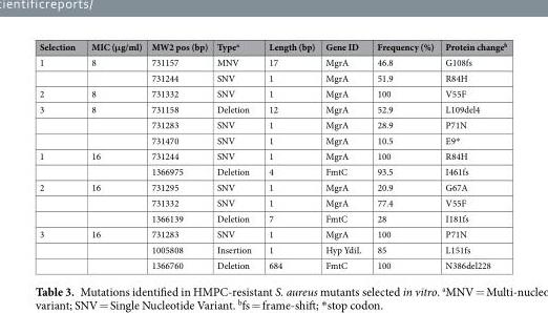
<table><thead><tr><td>Selection</td><td>MIC (μg/ml)</td><td>MW2 pos (bp)</td><td>Type<sup>a</sup></td><td>Length (bp)</td><td>Gene ID</td><td>Frequency (%)</td><td>Protein change<sup>b</sup></td></tr></thead><tbody><tr><td rowspan="2">1</td><td>8</td><td>731157</td><td>MNV</td><td>17</td><td>MgrA</td><td>46.8</td><td>G108fs</td></tr><tr><td></td><td>731244</td><td>SNV</td><td>1</td><td>MgrA</td><td>51.9</td><td>R84H</td></tr><tr><td>2</td><td>8</td><td>731332</td><td>SNV</td><td>1</td><td>MgrA</td><td>100</td><td>V55F</td></tr><tr><td rowspan="3">3</td><td>8</td><td>731158</td><td>Deletion</td><td>12</td><td>MgrA</td><td>52.9</td><td>L109del4</td></tr><tr><td></td><td>731283</td><td>SNV</td><td>1</td><td>MgrA</td><td>28.9</td><td>P71N</td></tr><tr><td></td><td>731470</td><td>SNV</td><td>1</td><td>MgrA</td><td>10.5</td><td>E9*</td></tr><tr><td rowspan="2">1</td><td>16</td><td>731244</td><td>SNV</td><td>1</td><td>MgrA</td><td>100</td><td>R84H</td></tr><tr><td></td><td>1366975</td><td>Deletion</td><td>4</td><td>FmtC</td><td>93.5</td><td>I461fs</td></tr><tr><td rowspan="3">2</td><td>16</td><td>731295</td><td>SNV</td><td>1</td><td>MgrA</td><td>20.9</td><td>G67A</td></tr><tr><td></td><td>731332</td><td>SNV</td><td>1</td><td>MgrA</td><td>77.4</td><td>V55F</td></tr><tr><td></td><td>1366139</td><td>Deletion</td><td>7</td><td>FmtC</td><td>28</td><td>I181fs</td></tr><tr><td rowspan="3">3</td><td>16</td><td>731283</td><td>SNV</td><td>1</td><td>MgrA</td><td>100</td><td>P71N</td></tr><tr><td></td><td>1005808</td><td>Insertion</td><td>1</td><td>Hyp YdiL</td><td>85</td><td>L151fs</td></tr><tr><td></td><td>1366760</td><td>Deletion</td><td>684</td><td>FmtC</td><td>100</td><td>N386del228</td></tr></tbody></table>